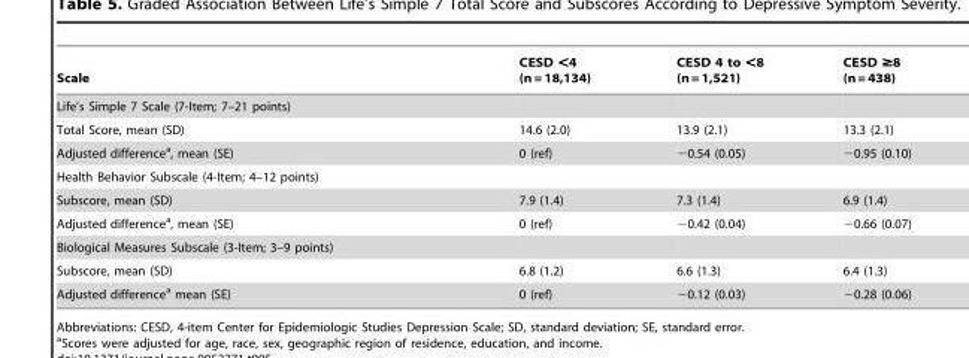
<table><thead><tr><td>Scale</td><td>CESD &lt;4 (n = 18,134)</td><td>CESD 4 to &lt;8 (n = 1,521)</td><td>CESD ≥8 (n = 438)</td></tr></thead><tbody><tr><td colspan="4">Life’s Simple 7 Scale (7-Item; 7–21 points)</td></tr><tr><td>Total Score, mean (SD)</td><td>14.6 (2.0)</td><td>13.9 (2.1)</td><td>13.3 (2.1)</td></tr><tr><td>Adjusted difference<sup>a</sup>, mean (SE)</td><td>0 (ref)</td><td>−0.54 (0.05)</td><td>−0.95 (0.10)</td></tr><tr><td colspan="4">Health Behavior Subscale (4-Item; 4–12 points)</td></tr><tr><td>Subscore, mean (SD)</td><td>7.9 (1.4)</td><td>7.3 (1.4)</td><td>6.9 (1.4)</td></tr><tr><td>Adjusted difference<sup>a</sup>, mean (SE)</td><td>0 (ref)</td><td>−0.42 (0.04)</td><td>−0.66 (0.07)</td></tr><tr><td colspan="4">Biological Measures Subscale (3-Item; 3–9 points)</td></tr><tr><td>Subscore, mean (SD)</td><td>6.8 (1.2)</td><td>6.6 (1.3)</td><td>6.4 (1.3)</td></tr><tr><td>Adjusted difference<sup>a</sup> mean (SE)</td><td>0 (ref)</td><td>−0.12 (0.03)</td><td>−0.28 (0.06)</td></tr></tbody></table>